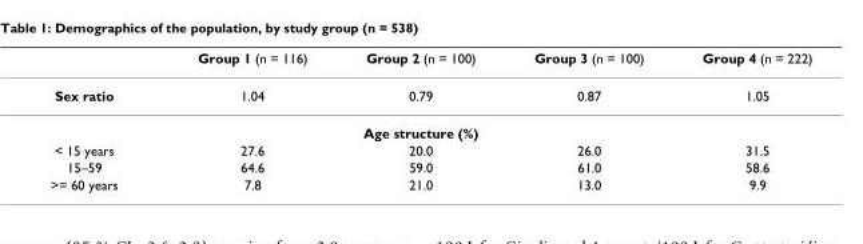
<table><thead><tr><td></td><td>Group 1 (n = 116)</td><td>Group 2 (n = 100)</td><td>Group 3 (n = 100)</td><td>Group 4 (n = 222)</td></tr></thead><tbody><tr><td>Sex ratio</td><td>1.04</td><td>0.79</td><td>0.87</td><td>1.05</td></tr><tr><td colspan="5">Age structure (%)</td></tr><tr><td>&lt; 15 years</td><td>27.6</td><td>20.0</td><td>26.0</td><td>31.5</td></tr><tr><td>15–59</td><td>64.6</td><td>59.0</td><td>61.0</td><td>58.6</td></tr><tr><td>&gt;= 60 years</td><td>7.8</td><td>21.0</td><td>13.0</td><td>9.9</td></tr></tbody></table>